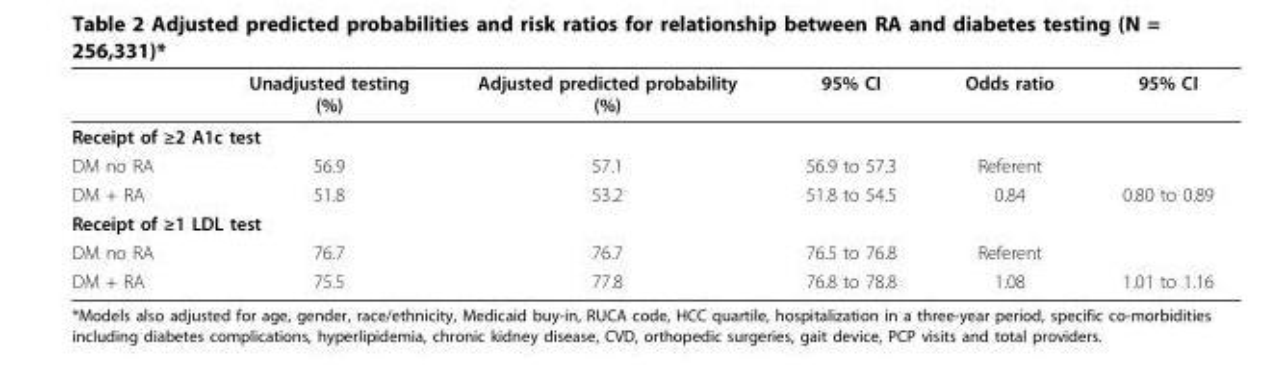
<table><thead><tr><td></td><td>Unadjusted testing (%)</td><td>Adjusted predicted probability (%)</td><td>95% CI</td><td>Odds ratio</td><td>95% CI</td></tr></thead><tbody><tr><td colspan="6">Receipt of ≥2 A1c test</td></tr><tr><td>DM no RA</td><td>56.9</td><td>57.1</td><td>56.9 to 57.3</td><td>Referent</td><td></td></tr><tr><td>DM + RA</td><td>51.8</td><td>53.2</td><td>51.8 to 54.5</td><td>0.84</td><td>0.80 to 0.89</td></tr><tr><td colspan="6">Receipt of ≥1 LDL test</td></tr><tr><td>DM no RA</td><td>76.7</td><td>76.7</td><td>76.5 to 76.8</td><td>Referent</td><td></td></tr><tr><td>DM + RA</td><td>75.5</td><td>77.8</td><td>76.8 to 78.8</td><td>1.08</td><td>1.01 to 1.16</td></tr></tbody></table>